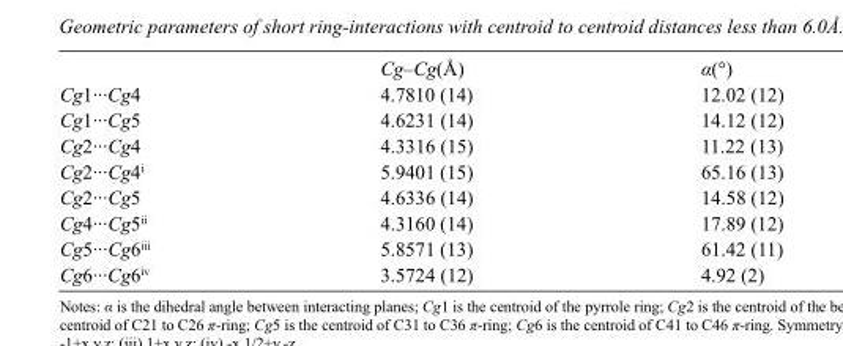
<table><thead><tr><td></td><td>Cg–Cg(Å)</td><td>α(°)</td></tr></thead><tbody><tr><td>Cg1···Cg4</td><td>4.7810 (14)</td><td>12.02 (12)</td></tr><tr><td>Cg1···Cg5</td><td>4.6231 (14)</td><td>14.12 (12)</td></tr><tr><td>Cg2···Cg4</td><td>4.3316 (15)</td><td>11.22 (13)</td></tr><tr><td>Cg2···Cg4<sup>i</sup></td><td>5.9401 (15)</td><td>65.16 (13)</td></tr><tr><td>Cg2···Cg5</td><td>4.6336 (14)</td><td>14.58 (12)</td></tr><tr><td>Cg4···Cg5<sup>ii</sup></td><td>4.3160 (14)</td><td>17.89 (12)</td></tr><tr><td>Cg5···Cg6<sup>iii</sup></td><td>5.8571 (13)</td><td>61.42 (11)</td></tr><tr><td>Cg6···Cg6<sup>iv</sup></td><td>3.5724 (12)</td><td>4.92 (2)</td></tr></tbody></table>